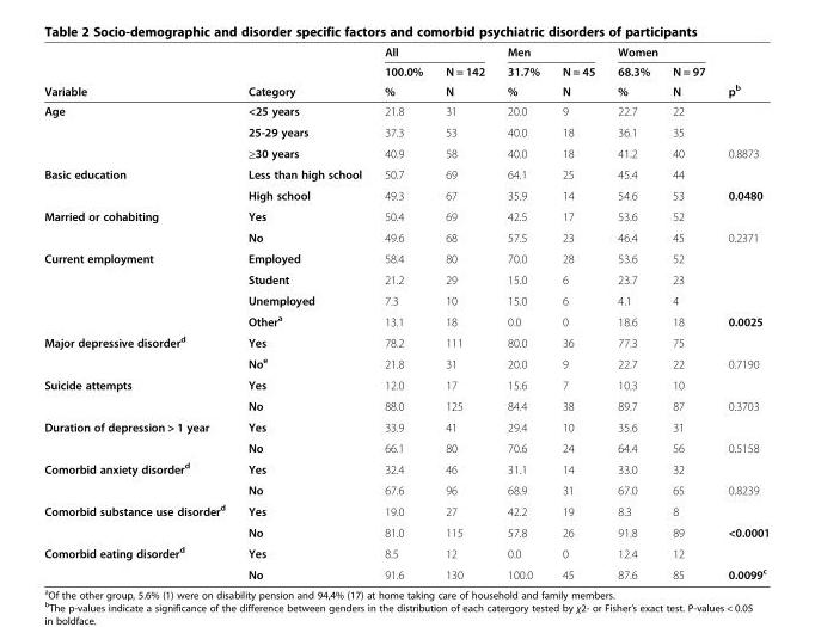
<table><thead><tr><td rowspan="3">Variable</td><td rowspan="3">Category</td><td colspan="2">All</td><td colspan="2">Men</td><td colspan="2">Women</td><td rowspan="3">p<sup>b</sup></td></tr><tr><td rowspan="2">100.0% %</td><td rowspan="2">N = 142 N</td><td rowspan="2">31.7% %</td><td rowspan="2">N = 45 N</td><td rowspan="2">68.3% %</td><td rowspan="2">N = 97 N</td></tr><tr></tr></thead><tbody><tr><td rowspan="3">Age</td><td>&lt;25 years</td><td>21.8</td><td>31</td><td>20.0</td><td>9</td><td>22.7</td><td>22</td><td></td></tr><tr><td>25-29 years</td><td>37.3</td><td>53</td><td>40.0</td><td>18</td><td>36.1</td><td>35</td><td></td></tr><tr><td>≥30 years</td><td>40.9</td><td>58</td><td>40.0</td><td>18</td><td>41.2</td><td>40</td><td>0.8873</td></tr><tr><td rowspan="2">Basic education</td><td>Less than high school</td><td>50.7</td><td>69</td><td>64.1</td><td>25</td><td>45.4</td><td>44</td><td></td></tr><tr><td>High school</td><td>49.3</td><td>67</td><td>35.9</td><td>14</td><td>54.6</td><td>53</td><td>0.0480</td></tr><tr><td rowspan="2">Married or cohabiting</td><td>Yes</td><td>50.4</td><td>69</td><td>42.5</td><td>17</td><td>53.6</td><td>52</td><td></td></tr><tr><td>No</td><td>49.6</td><td>68</td><td>57.5</td><td>23</td><td>46.4</td><td>45</td><td>0.2371</td></tr><tr><td rowspan="4">Current employment</td><td>Employed</td><td>58.4</td><td>80</td><td>70.0</td><td>28</td><td>53.6</td><td>52</td><td></td></tr><tr><td>Student</td><td>21.2</td><td>29</td><td>15.0</td><td>6</td><td>23.7</td><td>23</td><td></td></tr><tr><td>Unemployed</td><td>7.3</td><td>10</td><td>15.0</td><td>6</td><td>4.1</td><td>4</td><td></td></tr><tr><td>Other<sup>a</sup></td><td>13.1</td><td>18</td><td>0.0</td><td>0</td><td>18.6</td><td>18</td><td>0.0025</td></tr><tr><td rowspan="2">Major depressive disorder<sup>d</sup></td><td>Yes</td><td>78.2</td><td>111</td><td>80.0</td><td>36</td><td>77.3</td><td>75</td><td></td></tr><tr><td>No<sup>e</sup></td><td>21.8</td><td>31</td><td>20.0</td><td>9</td><td>22.7</td><td>22</td><td>0.7190</td></tr><tr><td rowspan="2">Suicide attempts</td><td>Yes</td><td>12.0</td><td>17</td><td>15.6</td><td>7</td><td>10.3</td><td>10</td><td></td></tr><tr><td>No</td><td>88.0</td><td>125</td><td>84.4</td><td>38</td><td>89.7</td><td>87</td><td>0.3703</td></tr><tr><td rowspan="2">Duration of depression &gt; 1 year</td><td>Yes</td><td>33.9</td><td>41</td><td>29.4</td><td>10</td><td>35.6</td><td>31</td><td></td></tr><tr><td>No</td><td>66.1</td><td>80</td><td>70.6</td><td>24</td><td>64.4</td><td>56</td><td>0.5158</td></tr><tr><td rowspan="2">Comorbid anxiety disorder<sup>d</sup></td><td>Yes</td><td>32.4</td><td>46</td><td>31.1</td><td>14</td><td>33.0</td><td>32</td><td></td></tr><tr><td>No</td><td>67.6</td><td>96</td><td>68.9</td><td>31</td><td>67.0</td><td>65</td><td>0.8239</td></tr><tr><td rowspan="2">Comorbid substance use disorder<sup>d</sup></td><td>Yes</td><td>19.0</td><td>27</td><td>42.2</td><td>19</td><td>8.3</td><td>8</td><td></td></tr><tr><td>No</td><td>81.0</td><td>115</td><td>57.8</td><td>26</td><td>91.8</td><td>89</td><td>&lt;0.0001</td></tr><tr><td rowspan="2">Comorbid eating disorder<sup>d</sup></td><td>Yes</td><td>8.5</td><td>12</td><td>0.0</td><td>0</td><td>12.4</td><td>12</td><td></td></tr><tr><td>No</td><td>91.6</td><td>130</td><td>100.0</td><td>45</td><td>87.6</td><td>85</td><td>0.0099<sup>c</sup></td></tr></tbody></table>